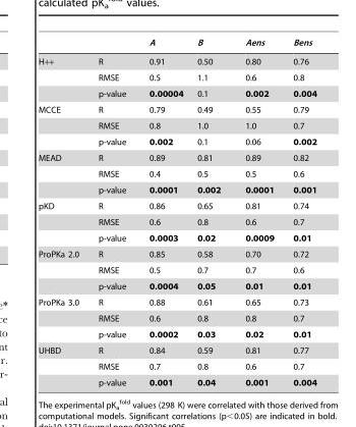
<table><thead><tr><td></td><td></td><td>A</td><td>B</td><td>Aens</td><td>Bens</td></tr></thead><tbody><tr><td rowspan="3">H++</td><td>R</td><td>0.91</td><td>0.50</td><td>0.80</td><td>0.76</td></tr><tr><td>RMSE</td><td>0.5</td><td>1.1</td><td>0.6</td><td>0.8</td></tr><tr><td>p-value</td><td>0.00004</td><td>0.1</td><td>0.002</td><td>0.004</td></tr><tr><td rowspan="3">MCCE</td><td>R</td><td>0.79</td><td>0.49</td><td>0.55</td><td>0.79</td></tr><tr><td>RMSE</td><td>0.8</td><td>1.0</td><td>1.0</td><td>0.7</td></tr><tr><td>p-value</td><td>0.002</td><td>0.1</td><td>0.06</td><td>0.002</td></tr><tr><td rowspan="3">MEAD</td><td>R</td><td>0.89</td><td>0.81</td><td>0.89</td><td>0.82</td></tr><tr><td>RMSE</td><td>0.4</td><td>0.5</td><td>0.5</td><td>0.6</td></tr><tr><td>p-value</td><td>0.0001</td><td>0.002</td><td>0.0001</td><td>0.001</td></tr><tr><td rowspan="3">pKD</td><td>R</td><td>0.86</td><td>0.65</td><td>0.81</td><td>0.74</td></tr><tr><td>RMSE</td><td>0.6</td><td>0.8</td><td>0.6</td><td>0.7</td></tr><tr><td>p-value</td><td>0.0003</td><td>0.02</td><td>0.0009</td><td>0.01</td></tr><tr><td rowspan="3">ProPKa 2.0</td><td>R</td><td>0.85</td><td>0.58</td><td>0.70</td><td>0.72</td></tr><tr><td>RMSE</td><td>0.5</td><td>0.7</td><td>0.7</td><td>0.6</td></tr><tr><td>p-value</td><td>0.0004</td><td>0.05</td><td>0.01</td><td>0.01</td></tr><tr><td rowspan="3">ProPKa 3.0</td><td>R</td><td>0.88</td><td>0.61</td><td>0.65</td><td>0.73</td></tr><tr><td>RMSE</td><td>0.6</td><td>0.8</td><td>0.8</td><td>0.7</td></tr><tr><td>p-value</td><td>0.0002</td><td>0.03</td><td>0.02</td><td>0.01</td></tr><tr><td rowspan="3">UHBD</td><td>R</td><td>0.84</td><td>0.59</td><td>0.81</td><td>0.77</td></tr><tr><td>RMSE</td><td>0.7</td><td>0.8</td><td>0.6</td><td>0.7</td></tr><tr><td>p-value</td><td>0.001</td><td>0.04</td><td>0.001</td><td>0.004</td></tr></tbody></table>